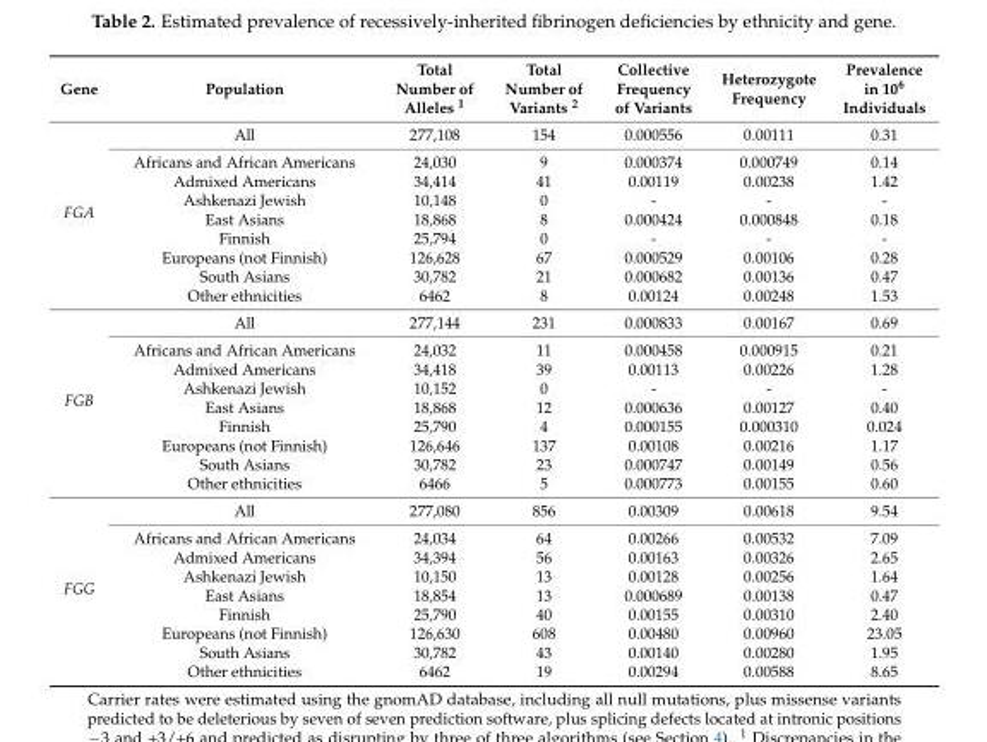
<table><thead><tr><td>Gene</td><td>Population</td><td>Total Number of Alleles <sup>1</sup></td><td>Total Number of Variants <sup>2</sup></td><td>Collective Frequency of Variants</td><td>Heterozygote Frequency</td><td>Prevalence in 10<sup>6</sup> Individuals</td></tr></thead><tbody><tr><td rowspan="9">FGA</td><td>All</td><td>277,108</td><td>154</td><td>0.000556</td><td>0.00111</td><td>0.31</td></tr><tr><td>Africans and African Americans</td><td>24,030</td><td>9</td><td>0.000374</td><td>0.000749</td><td>0.14</td></tr><tr><td>Admixed Americans</td><td>34,414</td><td>41</td><td>0.00119</td><td>0.00238</td><td>1.42</td></tr><tr><td>Ashkenazi Jewish</td><td>10,148</td><td>0</td><td>-</td><td>-</td><td>-</td></tr><tr><td>East Asians</td><td>18,868</td><td>8</td><td>0.000424</td><td>0.000848</td><td>0.18</td></tr><tr><td>Finnish</td><td>25,794</td><td>0</td><td>-</td><td>-</td><td>-</td></tr><tr><td>Europeans (not Finnish)</td><td>126,628</td><td>67</td><td>0.000529</td><td>0.00106</td><td>0.28</td></tr><tr><td>South Asians</td><td>30,782</td><td>21</td><td>0.000682</td><td>0.00136</td><td>0.47</td></tr><tr><td>Other ethnicities</td><td>6462</td><td>8</td><td>0.00124</td><td>0.00248</td><td>1.53</td></tr><tr><td rowspan="9">FGB</td><td>All</td><td>277,144</td><td>231</td><td>0.000833</td><td>0.00167</td><td>0.69</td></tr><tr><td>Africans and African Americans</td><td>24,032</td><td>11</td><td>0.000458</td><td>0.000915</td><td>0.21</td></tr><tr><td>Admixed Americans</td><td>34,418</td><td>39</td><td>0.00113</td><td>0.00226</td><td>1.28</td></tr><tr><td>Ashkenazi Jewish</td><td>10,152</td><td>0</td><td>-</td><td>-</td><td>-</td></tr><tr><td>East Asians</td><td>18,868</td><td>12</td><td>0.000636</td><td>0.00127</td><td>0.40</td></tr><tr><td>Finnish</td><td>25,790</td><td>4</td><td>0.000155</td><td>0.000310</td><td>0.024</td></tr><tr><td>Europeans (not Finnish)</td><td>126,646</td><td>137</td><td>0.00108</td><td>0.00216</td><td>1.17</td></tr><tr><td>South Asians</td><td>30,782</td><td>23</td><td>0.000747</td><td>0.00149</td><td>0.56</td></tr><tr><td>Other ethnicities</td><td>6466</td><td>5</td><td>0.000773</td><td>0.00155</td><td>0.60</td></tr><tr><td rowspan="9">FGG</td><td>All</td><td>277,080</td><td>856</td><td>0.00309</td><td>0.00618</td><td>9.54</td></tr><tr><td>Africans and African Americans</td><td>24,034</td><td>64</td><td>0.00266</td><td>0.00532</td><td>7.09</td></tr><tr><td>Admixed Americans</td><td>34,394</td><td>56</td><td>0.00163</td><td>0.00326</td><td>2.65</td></tr><tr><td>Ashkenazi Jewish</td><td>10,150</td><td>13</td><td>0.00128</td><td>0.00256</td><td>1.64</td></tr><tr><td>East Asians</td><td>18,854</td><td>13</td><td>0.000689</td><td>0.00138</td><td>0.47</td></tr><tr><td>Finnish</td><td>25,790</td><td>40</td><td>0.00155</td><td>0.00310</td><td>2.40</td></tr><tr><td>Europeans (not Finnish)</td><td>126,630</td><td>608</td><td>0.00480</td><td>0.00960</td><td>23.05</td></tr><tr><td>South Asians</td><td>30,782</td><td>43</td><td>0.00140</td><td>0.00280</td><td>1.95</td></tr><tr><td>Other ethnicities</td><td>6462</td><td>19</td><td>0.00294</td><td>0.00588</td><td>8.65</td></tr></tbody></table>